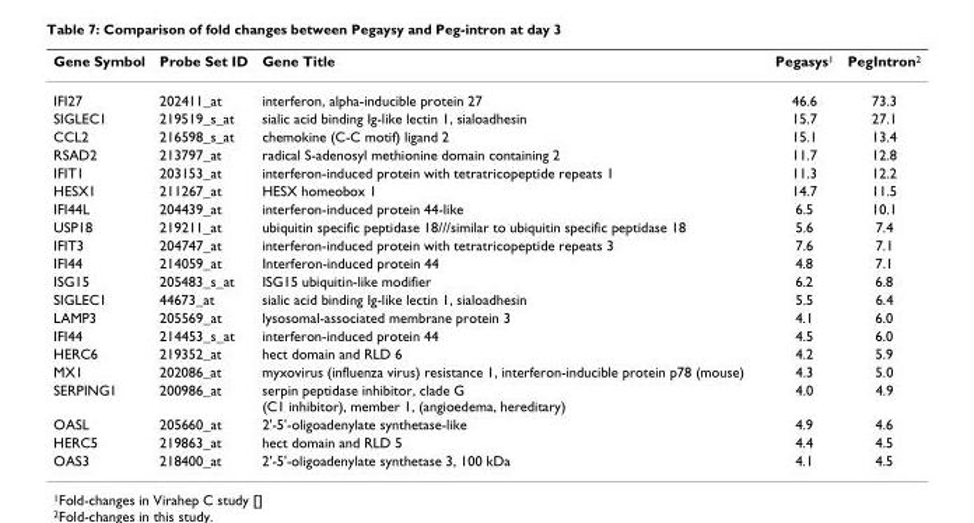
<table><thead><tr><td>Gene Symbol</td><td>Probe Set ID</td><td>Gene Title</td><td>Pegasys<sup>1</sup></td><td>PegIntron<sup>2</sup></td></tr></thead><tbody><tr><td>IFI27</td><td>202411_at</td><td>interferon, alpha-inducible protein 27</td><td>46.6</td><td>73.3</td></tr><tr><td>SIGLEC1</td><td>219519_s_at</td><td>sialic acid binding Ig-like lectin 1, sialoadhesin</td><td>15.7</td><td>27.1</td></tr><tr><td>CCL2</td><td>216598_s_at</td><td>chemokine (C-C motif) ligand 2</td><td>15.1</td><td>13.4</td></tr><tr><td>RSAD2</td><td>213797_at</td><td>radical S-adenosyl methionine domain containing 2</td><td>11.7</td><td>12.8</td></tr><tr><td>IFIT1</td><td>203153_at</td><td>interferon-induced protein with tetratricopeptide repeats 1</td><td>11.3</td><td>12.2</td></tr><tr><td>HESX1</td><td>211267_at</td><td>HESX homeobox 1</td><td>14.7</td><td>11.5</td></tr><tr><td>IFI44L</td><td>204439_at</td><td>interferon-induced protein 44-like</td><td>6.5</td><td>10.1</td></tr><tr><td>USP18</td><td>219211_at</td><td>ubiquitin specific peptidase 18///similar to ubiquitin specific peptidase 18</td><td>5.6</td><td>7.4</td></tr><tr><td>IFIT3</td><td>204747_at</td><td>interferon-induced protein with tetratricopeptide repeats 3</td><td>7.6</td><td>7.1</td></tr><tr><td>IFI44</td><td>214059_at</td><td>Interferon-induced protein 44</td><td>4.8</td><td>7.1</td></tr><tr><td>ISG15</td><td>205483_s_at</td><td>ISG15 ubiquitin-like modifier</td><td>6.2</td><td>6.8</td></tr><tr><td>SIGLEC1</td><td>44673_at</td><td>sialic acid binding Ig-like lectin 1, sialoadhesin</td><td>5.5</td><td>6.4</td></tr><tr><td>LAMP3</td><td>205569_at</td><td>lysosomal-associated membrane protein 3</td><td>4.1</td><td>6.0</td></tr><tr><td>IFI44</td><td>214453_s_at</td><td>interferon-induced protein 44</td><td>4.5</td><td>6.0</td></tr><tr><td>HERC6</td><td>219352_at</td><td>hect domain and RLD 6</td><td>4.2</td><td>5.9</td></tr><tr><td>MX1</td><td>202086_at</td><td>myxovirus (influenza virus) resistance 1, interferon-inducible protein p78 (mouse)</td><td>4.3</td><td>5.0</td></tr><tr><td>SERPING1</td><td>200986_at</td><td>serpin peptidase inhibitor, clade G (C1 inhibitor), member 1, (angioedema, hereditary)</td><td>4.0</td><td>4.9</td></tr><tr><td>OASL</td><td>205660_at</td><td>2&#x27;-5&#x27;-oligoadenylate synthetase-like</td><td>4.9</td><td>4.6</td></tr><tr><td>HERC5</td><td>219863_at</td><td>hect domain and RLD 5</td><td>4.4</td><td>4.5</td></tr><tr><td>OAS3</td><td>218400_at</td><td>2&#x27;-5&#x27;-oligoadenylate synthetase 3, 100 kDa</td><td>4.1</td><td>4.5</td></tr></tbody></table>